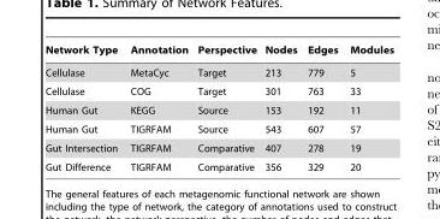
<table><thead><tr><td>Network Type</td><td>Annotation</td><td>Perspective</td><td>Nodes</td><td>Edges</td><td>Modules</td></tr></thead><tbody><tr><td>Cellulase</td><td>MetaCyc</td><td>Target</td><td>213</td><td>779</td><td>5</td></tr><tr><td>Cellulase</td><td>COG</td><td>Target</td><td>301</td><td>763</td><td>33</td></tr><tr><td>Human Gut</td><td>KEGG</td><td>Source</td><td>153</td><td>192</td><td>11</td></tr><tr><td>Human Gut</td><td>TIGRFAM</td><td>Source</td><td>543</td><td>607</td><td>57</td></tr><tr><td>Gut Intersection</td><td>TIGRFAM</td><td>Comparative</td><td>407</td><td>278</td><td>19</td></tr><tr><td>Gut Difference</td><td>TIGRFAM</td><td>Comparative</td><td>356</td><td>329</td><td>20</td></tr></tbody></table>